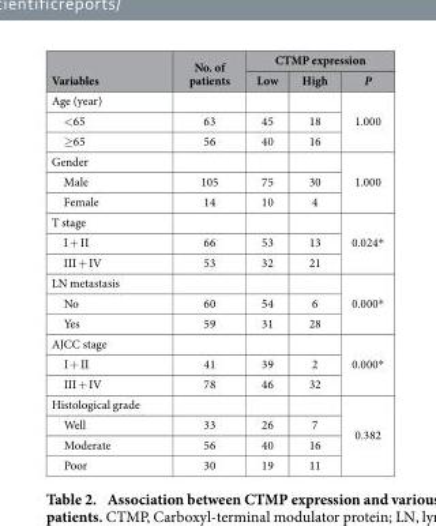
<table><thead><tr><td rowspan="2">Variables</td><td rowspan="2">No. of patients</td><td colspan="3">CTMP expression</td></tr><tr><td>Low</td><td>High</td><td>P</td></tr></thead><tbody><tr><td colspan="4">Age (year)</td><td rowspan="3">1.000</td></tr><tr><td>&lt; 65</td><td>63</td><td>45</td><td>18</td></tr><tr><td>≥ 65</td><td>56</td><td>40</td><td>16</td></tr><tr><td colspan="4">Gender</td><td rowspan="3">1.000</td></tr><tr><td>Male</td><td>105</td><td>75</td><td>30</td></tr><tr><td>Female</td><td>14</td><td>10</td><td>4</td></tr><tr><td colspan="4">T stage</td><td rowspan="3">0.024*</td></tr><tr><td>I + II</td><td>66</td><td>53</td><td>13</td></tr><tr><td>III + IV</td><td>53</td><td>32</td><td>21</td></tr><tr><td colspan="4">LN metastasis</td><td rowspan="3">0.000*</td></tr><tr><td>No</td><td>60</td><td>54</td><td>6</td></tr><tr><td>Yes</td><td>59</td><td>31</td><td>28</td></tr><tr><td colspan="4">AJCC stage</td><td rowspan="3">0.000*</td></tr><tr><td>I + II</td><td>41</td><td>39</td><td>2</td></tr><tr><td>III + IV</td><td>78</td><td>46</td><td>32</td></tr><tr><td colspan="4">Histological grade</td><td rowspan="4">0.382</td></tr><tr><td>Well</td><td>33</td><td>26</td><td>7</td></tr><tr><td>Moderate</td><td>56</td><td>40</td><td>16</td></tr><tr><td>Poor</td><td>30</td><td>19</td><td>11</td></tr></tbody></table>